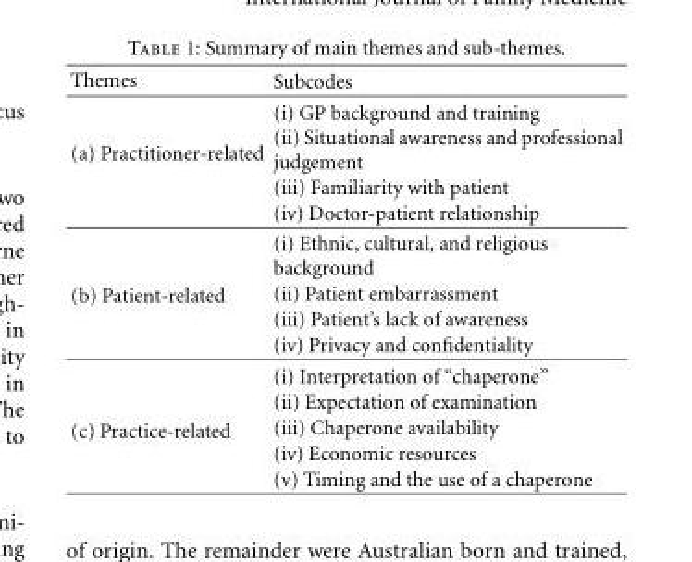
<table><thead><tr><td>Themes</td><td>Subcodes</td></tr></thead><tbody><tr><td rowspan="4">(a) Practitioner-related</td><td>(i) GP background and training</td></tr><tr><td>(ii) Situational awareness and professional judgement</td></tr><tr><td>(iii) Familiarity with patient</td></tr><tr><td>(iv) Doctor-patient relationship</td></tr><tr><td rowspan="4">(b) Patient-related</td><td>(i) Ethnic, cultural, and religious background</td></tr><tr><td>(ii) Patient embarrassment</td></tr><tr><td>(iii) Patient’s lack of awareness</td></tr><tr><td>(iv) Privacy and confidentiality</td></tr><tr><td rowspan="5">(c) Practice-related</td><td>(i) Interpretation of “chaperone”</td></tr><tr><td>(ii) Expectation of examination</td></tr><tr><td>(iii) Chaperone availability</td></tr><tr><td>(iv) Economic resources</td></tr><tr><td>(v) Timing and the use of a chaperone</td></tr></tbody></table>